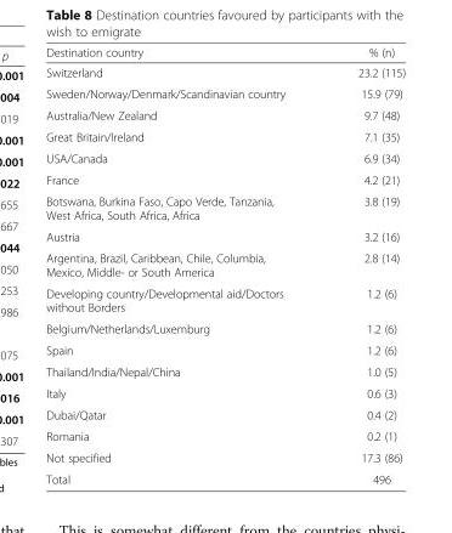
<table><thead><tr><td>Destination country</td><td>% (n)</td></tr></thead><tbody><tr><td>Switzerland</td><td>23.2 (115)</td></tr><tr><td>Sweden/Norway/Denmark/Scandinavian country</td><td>15.9 (79)</td></tr><tr><td>Australia/New Zealand</td><td>9.7 (48)</td></tr><tr><td>Great Britain/Ireland</td><td>7.1 (35)</td></tr><tr><td>USA/Canada</td><td>6.9 (34)</td></tr><tr><td>France</td><td>4.2 (21)</td></tr><tr><td>Botswana, Burkina Faso, Capo Verde, Tanzania, West Africa, South Africa, Africa</td><td>3.8 (19)</td></tr><tr><td>Austria</td><td>3.2 (16)</td></tr><tr><td>Argentina, Brazil, Caribbean, Chile, Columbia, Mexico, Middle- or South America</td><td>2.8 (14)</td></tr><tr><td>Developing country/Developmental aid/Doctors without Borders</td><td>1.2 (6)</td></tr><tr><td>Belgium/Netherlands/Luxemburg</td><td>1.2 (6)</td></tr><tr><td>Spain</td><td>1.2 (6)</td></tr><tr><td>Thailand/India/Nepal/China</td><td>1.0 (5)</td></tr><tr><td>Italy</td><td>0.6 (3)</td></tr><tr><td>Dubai/Qatar</td><td>0.4 (2)</td></tr><tr><td>Romania</td><td>0.2 (1)</td></tr><tr><td>Not specified</td><td>17.3 (86)</td></tr><tr><td>Total</td><td>496</td></tr></tbody></table>